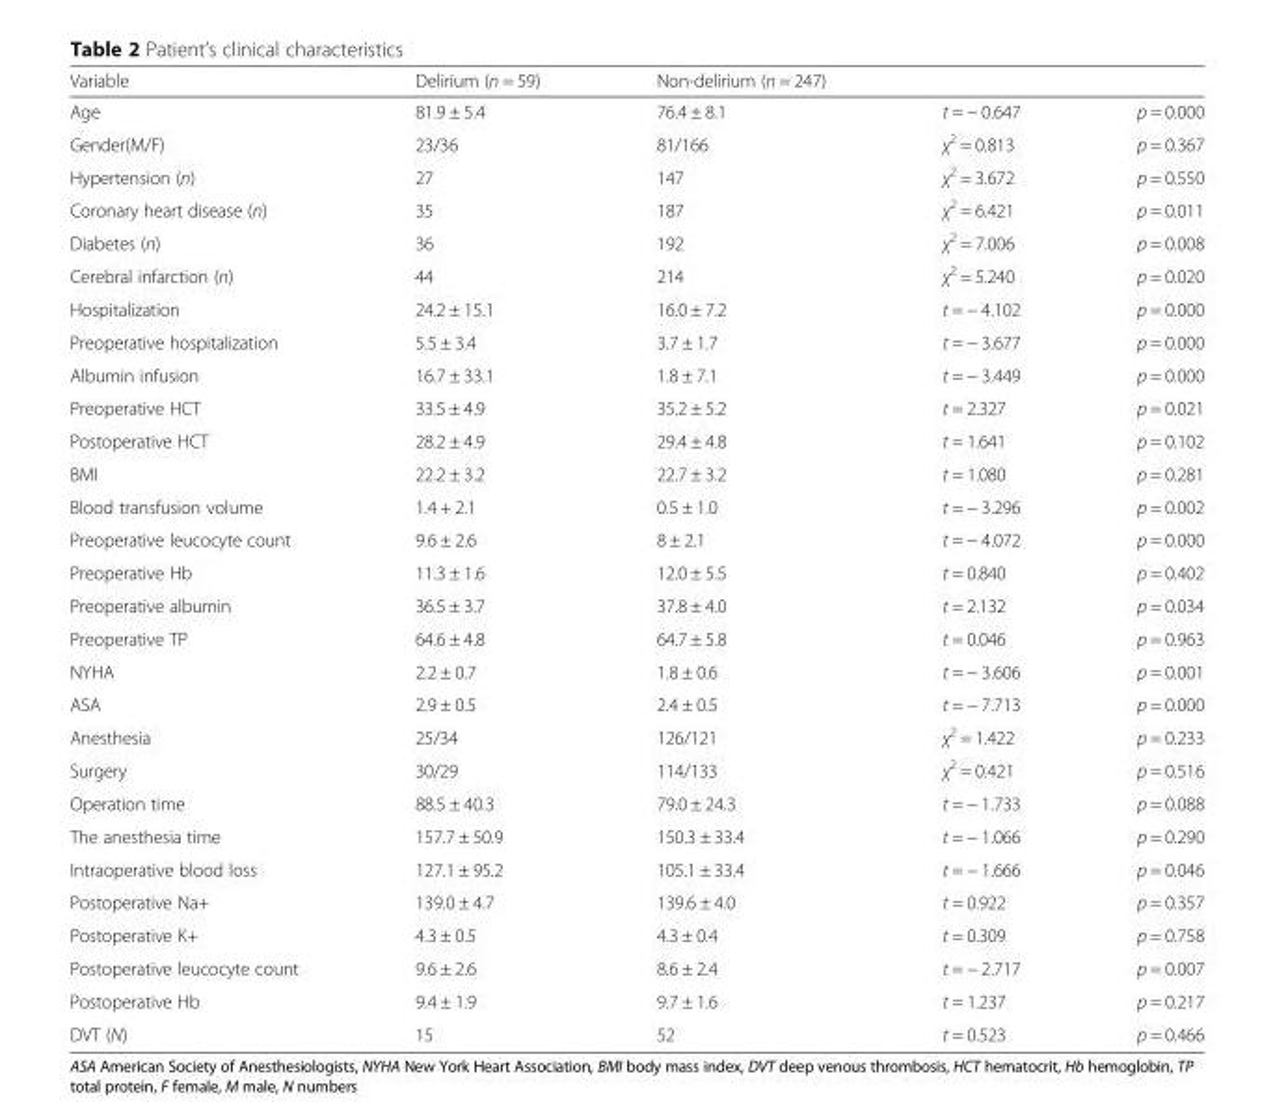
<table><thead><tr><td>Variable</td><td>Delirium (n = 59)</td><td>Non-delirium (n = 247)</td><td></td><td></td></tr></thead><tbody><tr><td>Age</td><td>81.9 ± 5.4</td><td>76.4 ± 8.1</td><td>t = − 0.647</td><td>p = 0.000</td></tr><tr><td>Gender(M/F)</td><td>23/36</td><td>81/166</td><td>χ<sup>2</sup> = 0.813</td><td>p = 0.367</td></tr><tr><td>Hypertension (n)</td><td>27</td><td>147</td><td>χ<sup>2</sup> = 3.672</td><td>p = 0.550</td></tr><tr><td>Coronary heart disease (n)</td><td>35</td><td>187</td><td>χ<sup>2</sup> = 6.421</td><td>p = 0.011</td></tr><tr><td>Diabetes (n)</td><td>36</td><td>192</td><td>χ<sup>2</sup> = 7.006</td><td>p = 0.008</td></tr><tr><td>Cerebral infarction (n)</td><td>44</td><td>214</td><td>χ<sup>2</sup> = 5.240</td><td>p = 0.020</td></tr><tr><td>Hospitalization</td><td>24.2 ± 15.1</td><td>16.0 ± 7.2</td><td>t = − 4.102</td><td>p = 0.000</td></tr><tr><td>Preoperative hospitalization</td><td>5.5 ± 3.4</td><td>3.7 ± 1.7</td><td>t = − 3.677</td><td>p = 0.000</td></tr><tr><td>Albumin infusion</td><td>16.7 ± 33.1</td><td>1.8 ± 7.1</td><td>t = − 3.449</td><td>p = 0.000</td></tr><tr><td>Preoperative HCT</td><td>33.5 ± 4.9</td><td>35.2 ± 5.2</td><td>t = 2.327</td><td>p = 0.021</td></tr><tr><td>Postoperative HCT</td><td>28.2 ± 4.9</td><td>29.4 ± 4.8</td><td>t = 1.641</td><td>p = 0.102</td></tr><tr><td>BMI</td><td>22.2 ± 3.2</td><td>22.7 ± 3.2</td><td>t = 1.080</td><td>p = 0.281</td></tr><tr><td>Blood transfusion volume</td><td>1.4 + 2.1</td><td>0.5 ± 1.0</td><td>t = − 3.296</td><td>p = 0.002</td></tr><tr><td>Preoperative leucocyte count</td><td>9.6 ± 2.6</td><td>8 ± 2.1</td><td>t = − 4.072</td><td>p = 0.000</td></tr><tr><td>Preoperative Hb</td><td>11.3 ± 1.6</td><td>12.0 ± 5.5</td><td>t = 0.840</td><td>p = 0.402</td></tr><tr><td>Preoperative albumin</td><td>36.5 ± 3.7</td><td>37.8 ± 4.0</td><td>t = 2.132</td><td>p = 0.034</td></tr><tr><td>Preoperative TP</td><td>64.6 ± 4.8</td><td>64.7 ± 5.8</td><td>t = 0.046</td><td>p = 0.963</td></tr><tr><td>NYHA</td><td>2.2 ± 0.7</td><td>1.8 ± 0.6</td><td>t = − 3.606</td><td>p = 0.001</td></tr><tr><td>ASA</td><td>2.9 ± 0.5</td><td>2.4 ± 0.5</td><td>t = − 7.713</td><td>p = 0.000</td></tr><tr><td>Anesthesia</td><td>25/34</td><td>126/121</td><td>χ<sup>2</sup> = 1.422</td><td>p = 0.233</td></tr><tr><td>Surgery</td><td>30/29</td><td>114/133</td><td>χ<sup>2</sup> = 0.421</td><td>p = 0.516</td></tr><tr><td>Operation time</td><td>88.5 ± 40.3</td><td>79.0 ± 24.3</td><td>t = − 1.733</td><td>p = 0.088</td></tr><tr><td>The anesthesia time</td><td>157.7 ± 50.9</td><td>150.3 ± 33.4</td><td>t = − 1.066</td><td>p = 0.290</td></tr><tr><td>Intraoperative blood loss</td><td>127.1 ± 95.2</td><td>105.1 ± 33.4</td><td>t = − 1.666</td><td>p = 0.046</td></tr><tr><td>Postoperative Na+</td><td>139.0 ± 4.7</td><td>139.6 ± 4.0</td><td>t = 0.922</td><td>p = 0.357</td></tr><tr><td>Postoperative K+</td><td>4.3 ± 0.5</td><td>4.3 ± 0.4</td><td>t = 0.309</td><td>p = 0.758</td></tr><tr><td>Postoperative leucocyte count</td><td>9.6 ± 2.6</td><td>8.6 ± 2.4</td><td>t = − 2.717</td><td>p = 0.007</td></tr><tr><td>Postoperative Hb</td><td>9.4 ± 1.9</td><td>9.7 ± 1.6</td><td>t = 1.237</td><td>p = 0.217</td></tr><tr><td>DVT (N)</td><td>15</td><td>52</td><td>t = 0.523</td><td>p = 0.466</td></tr></tbody></table>